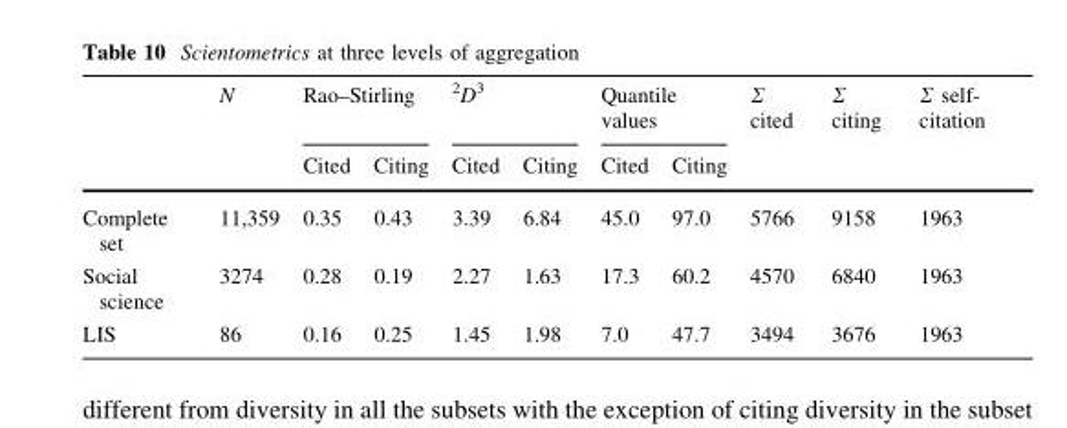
<table><thead><tr><td rowspan="2"></td><td rowspan="2">N</td><td colspan="2">Rao–Stirling</td><td colspan="2"><sup>2</sup>D<sup>3</sup></td><td colspan="2">Quantile values</td><td rowspan="2">Σ cited</td><td rowspan="2">Σ citing</td><td rowspan="2">Σ self- citation</td></tr><tr><td>Cited</td><td>Citing</td><td>Cited</td><td>Citing</td><td>Cited</td><td>Citing</td></tr></thead><tbody><tr><td>Complete set</td><td>11,359</td><td>0.35</td><td>0.43</td><td>3.39</td><td>6.84</td><td>45.0</td><td>97.0</td><td>5766</td><td>9158</td><td>1963</td></tr><tr><td>Social science</td><td>3274</td><td>0.28</td><td>0.19</td><td>2.27</td><td>1.63</td><td>17.3</td><td>60.2</td><td>4570</td><td>6840</td><td>1963</td></tr><tr><td>LIS</td><td>86</td><td>0.16</td><td>0.25</td><td>1.45</td><td>1.98</td><td>7.0</td><td>47.7</td><td>3494</td><td>3676</td><td>1963</td></tr></tbody></table>